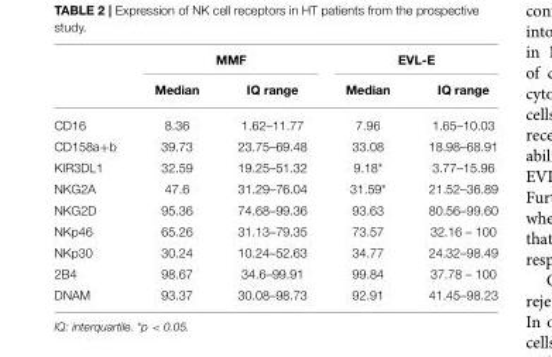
<table><thead><tr><td rowspan="2"></td><td colspan="2">MMF</td><td colspan="2">EVL-E</td></tr><tr><td>Median</td><td>IQ range</td><td>Median</td><td>IQ range</td></tr></thead><tbody><tr><td>CD16</td><td>8.36</td><td>1.62–11.77</td><td>7.96</td><td>1.65–10.03</td></tr><tr><td>CD158a+b</td><td>39.73</td><td>23.75–69.48</td><td>33.08</td><td>18.98–68.91</td></tr><tr><td>KIR3DL1</td><td>32.59</td><td>19.25–51.32</td><td>9.18*</td><td>3.77–15.96</td></tr><tr><td>NKG2A</td><td>47.6</td><td>31.29–76.04</td><td>31.59*</td><td>21.52–36.89</td></tr><tr><td>NKG2D</td><td>95.36</td><td>74.68–99.36</td><td>93.63</td><td>80.56–99.60</td></tr><tr><td>NKp46</td><td>65.26</td><td>31.13–79.35</td><td>73.57</td><td>32.16 – 100</td></tr><tr><td>NKp30</td><td>30.24</td><td>10.24–52.63</td><td>34.77</td><td>24.32–98.49</td></tr><tr><td>2B4</td><td>98.67</td><td>34.6–99.91</td><td>99.84</td><td>37.78 – 100</td></tr><tr><td>DNAM</td><td>93.37</td><td>30.08–98.73</td><td>92.91</td><td>41.45–98.23</td></tr></tbody></table>